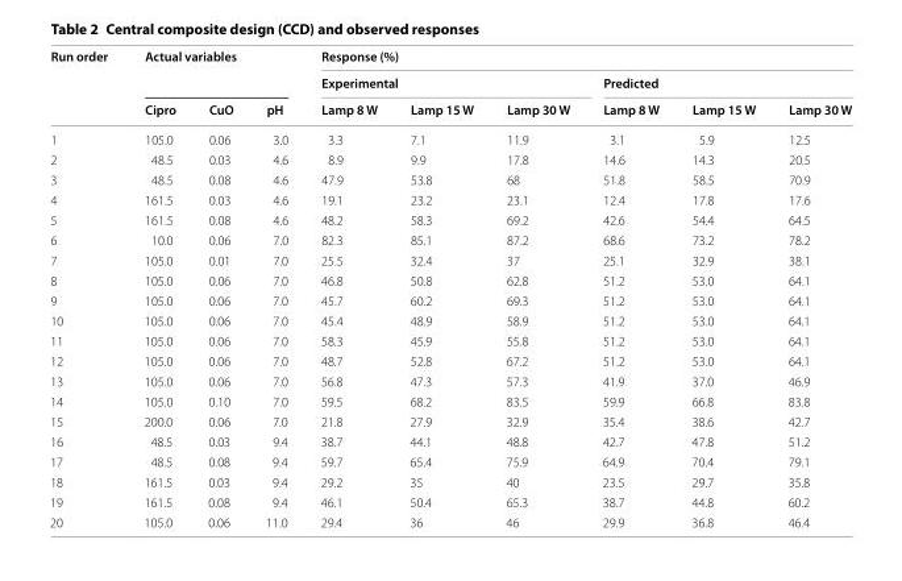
<table><thead><tr><td rowspan="3">Run order</td><td rowspan="2" colspan="3">Actual variables</td><td colspan="6">Response (%)</td></tr><tr><td colspan="3">Experimental</td><td colspan="3">Predicted</td></tr><tr><td>Cipro</td><td>CuO</td><td>pH</td><td>Lamp 8 W</td><td>Lamp 15 W</td><td>Lamp 30 W</td><td>Lamp 8 W</td><td>Lamp 15 W</td><td>Lamp 30 W</td></tr></thead><tbody><tr><td>1</td><td>105.0</td><td>0.06</td><td>3.0</td><td>3.3</td><td>7.1</td><td>11.9</td><td>3.1</td><td>5.9</td><td>12.5</td></tr><tr><td>2</td><td>48.5</td><td>0.03</td><td>4.6</td><td>8.9</td><td>9.9</td><td>17.8</td><td>14.6</td><td>14.3</td><td>20.5</td></tr><tr><td>3</td><td>48.5</td><td>0.08</td><td>4.6</td><td>47.9</td><td>53.8</td><td>68</td><td>51.8</td><td>58.5</td><td>70.9</td></tr><tr><td>4</td><td>161.5</td><td>0.03</td><td>4.6</td><td>19.1</td><td>23.2</td><td>23.1</td><td>12.4</td><td>17.8</td><td>17.6</td></tr><tr><td>5</td><td>161.5</td><td>0.08</td><td>4.6</td><td>48.2</td><td>58.3</td><td>69.2</td><td>42.6</td><td>54.4</td><td>64.5</td></tr><tr><td>6</td><td>10.0</td><td>0.06</td><td>7.0</td><td>82.3</td><td>85.1</td><td>87.2</td><td>68.6</td><td>73.2</td><td>78.2</td></tr><tr><td>7</td><td>105.0</td><td>0.01</td><td>7.0</td><td>25.5</td><td>32.4</td><td>37</td><td>25.1</td><td>32.9</td><td>38.1</td></tr><tr><td>8</td><td>105.0</td><td>0.06</td><td>7.0</td><td>46.8</td><td>50.8</td><td>62.8</td><td>51.2</td><td>53.0</td><td>64.1</td></tr><tr><td>9</td><td>105.0</td><td>0.06</td><td>7.0</td><td>45.7</td><td>60.2</td><td>69.3</td><td>51.2</td><td>53.0</td><td>64.1</td></tr><tr><td>10</td><td>105.0</td><td>0.06</td><td>7.0</td><td>45.4</td><td>48.9</td><td>58.9</td><td>51.2</td><td>53.0</td><td>64.1</td></tr><tr><td>11</td><td>105.0</td><td>0.06</td><td>7.0</td><td>58.3</td><td>45.9</td><td>55.8</td><td>51.2</td><td>53.0</td><td>64.1</td></tr><tr><td>12</td><td>105.0</td><td>0.06</td><td>7.0</td><td>48.7</td><td>52.8</td><td>67.2</td><td>51.2</td><td>53.0</td><td>64.1</td></tr><tr><td>13</td><td>105.0</td><td>0.06</td><td>7.0</td><td>56.8</td><td>47.3</td><td>57.3</td><td>41.9</td><td>37.0</td><td>46.9</td></tr><tr><td>14</td><td>105.0</td><td>0.10</td><td>7.0</td><td>59.5</td><td>68.2</td><td>83.5</td><td>59.9</td><td>66.8</td><td>83.8</td></tr><tr><td>15</td><td>200.0</td><td>0.06</td><td>7.0</td><td>21.8</td><td>27.9</td><td>32.9</td><td>35.4</td><td>38.6</td><td>42.7</td></tr><tr><td>16</td><td>48.5</td><td>0.03</td><td>9.4</td><td>38.7</td><td>44.1</td><td>48.8</td><td>42.7</td><td>47.8</td><td>51.2</td></tr><tr><td>17</td><td>48.5</td><td>0.08</td><td>9.4</td><td>59.7</td><td>65.4</td><td>75.9</td><td>64.9</td><td>70.4</td><td>79.1</td></tr><tr><td>18</td><td>161.5</td><td>0.03</td><td>9.4</td><td>29.2</td><td>35</td><td>40</td><td>23.5</td><td>29.7</td><td>35.8</td></tr><tr><td>19</td><td>161.5</td><td>0.08</td><td>9.4</td><td>46.1</td><td>50.4</td><td>65.3</td><td>38.7</td><td>44.8</td><td>60.2</td></tr><tr><td>20</td><td>105.0</td><td>0.06</td><td>11.0</td><td>29.4</td><td>36</td><td>46</td><td>29.9</td><td>36.8</td><td>46.4</td></tr></tbody></table>